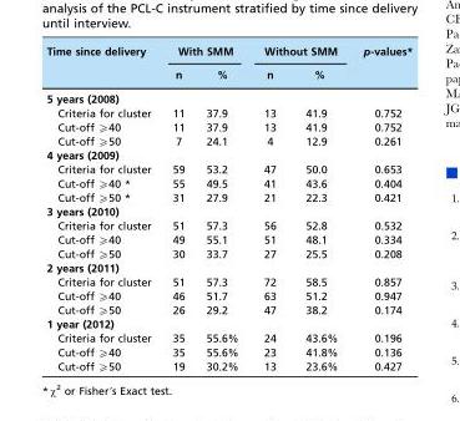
<table><thead><tr><td rowspan="2">Time since delivery</td><td colspan="2">With SMM</td><td colspan="2">Without SMM</td><td rowspan="2">p-values*</td></tr><tr><td>n</td><td>%</td><td>n</td><td>%</td></tr></thead><tbody><tr><td colspan="6">5 years (2008)</td></tr><tr><td>Criteria for cluster</td><td>11</td><td>37.9</td><td>13</td><td>41.9</td><td>0.752</td></tr><tr><td>Cut-off ≥40</td><td>11</td><td>37.9</td><td>13</td><td>41.9</td><td>0.752</td></tr><tr><td>Cut-off ≥50</td><td>7</td><td>24.1</td><td>4</td><td>12.9</td><td>0.261</td></tr><tr><td colspan="6">4 years (2009)</td></tr><tr><td>Criteria for cluster</td><td>59</td><td>53.2</td><td>47</td><td>50.0</td><td>0.653</td></tr><tr><td>Cut-off ≥40 *</td><td>55</td><td>49.5</td><td>41</td><td>43.6</td><td>0.404</td></tr><tr><td>Cut-off ≥50 *</td><td>31</td><td>27.9</td><td>21</td><td>22.3</td><td>0.421</td></tr><tr><td colspan="6">3 years (2010)</td></tr><tr><td>Criteria for cluster</td><td>51</td><td>57.3</td><td>56</td><td>52.8</td><td>0.532</td></tr><tr><td>Cut-off ≥40</td><td>49</td><td>55.1</td><td>51</td><td>48.1</td><td>0.334</td></tr><tr><td>Cut-off ≥50</td><td>30</td><td>33.7</td><td>27</td><td>25.5</td><td>0.208</td></tr><tr><td colspan="6">2 years (2011)</td></tr><tr><td>Criteria for cluster</td><td>51</td><td>57.3</td><td>72</td><td>58.5</td><td>0.857</td></tr><tr><td>Cut-off ≥40</td><td>46</td><td>51.7</td><td>63</td><td>51.2</td><td>0.947</td></tr><tr><td>Cut-off ≥50</td><td>26</td><td>29.2</td><td>47</td><td>38.2</td><td>0.174</td></tr><tr><td colspan="6">1 year (2012)</td></tr><tr><td>Criteria for cluster</td><td>35</td><td>55.6%</td><td>24</td><td>43.6%</td><td>0.196</td></tr><tr><td>Cut-off ≥40</td><td>35</td><td>55.6%</td><td>23</td><td>41.8%</td><td>0.136</td></tr><tr><td>Cut-off ≥50</td><td>19</td><td>30.2%</td><td>13</td><td>23.6%</td><td>0.427</td></tr></tbody></table>